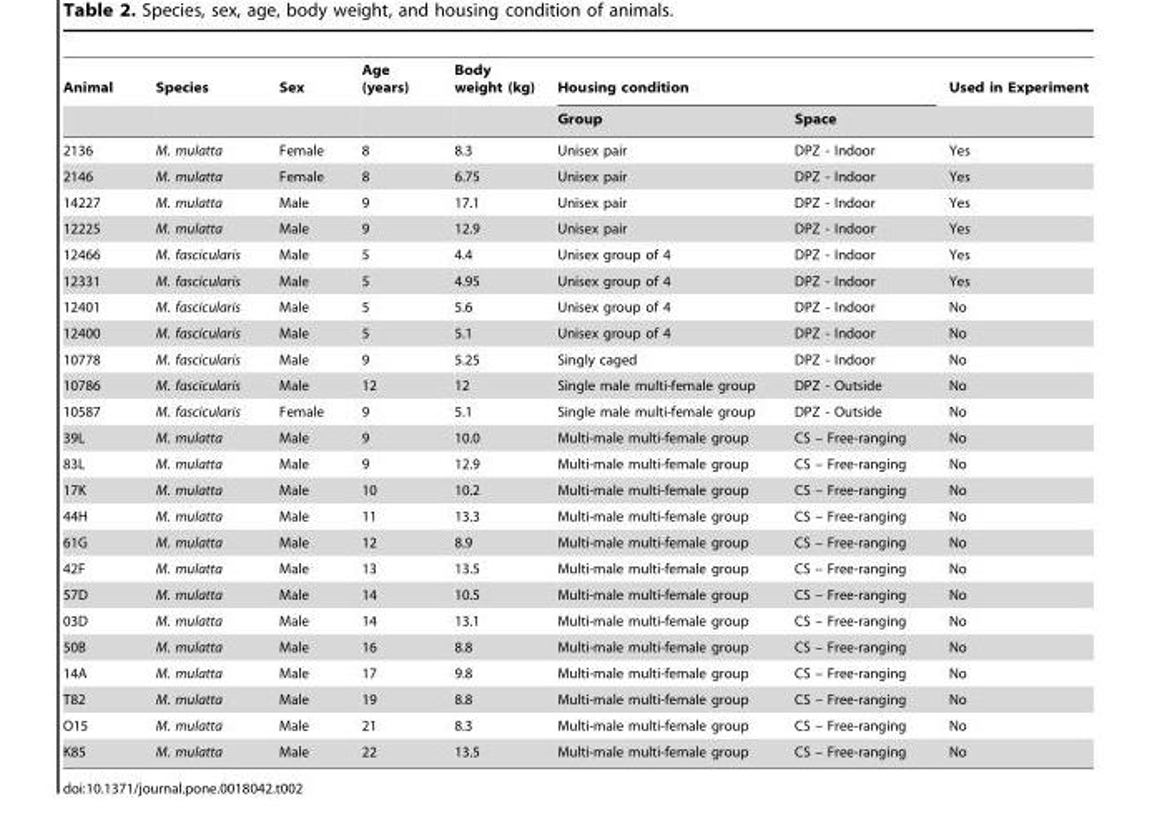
<table><thead><tr><td rowspan="2">Animal</td><td rowspan="2">Species</td><td rowspan="2">Sex</td><td rowspan="2">Age (years)</td><td rowspan="2">Body weight (kg)</td><td colspan="2">Housing condition</td><td rowspan="2">Used in Experiment</td></tr><tr><td>Group</td><td>Space</td></tr></thead><tbody><tr><td>2136</td><td>M. mulatta</td><td>Female</td><td>8</td><td>8.3</td><td>Unisex pair</td><td>DPZ - Indoor</td><td>Yes</td></tr><tr><td>2146</td><td>M. mulatta</td><td>Female</td><td>8</td><td>6.75</td><td>Unisex pair</td><td>DPZ - Indoor</td><td>Yes</td></tr><tr><td>14227</td><td>M. mulatta</td><td>Male</td><td>9</td><td>17.1</td><td>Unisex pair</td><td>DPZ - Indoor</td><td>Yes</td></tr><tr><td>12225</td><td>M. mulatta</td><td>Male</td><td>9</td><td>12.9</td><td>Unisex pair</td><td>DPZ - Indoor</td><td>Yes</td></tr><tr><td>12466</td><td>M. fascicularis</td><td>Male</td><td>5</td><td>4.4</td><td>Unisex group of 4</td><td>DPZ - Indoor</td><td>Yes</td></tr><tr><td>12331</td><td>M. fascicularis</td><td>Male</td><td>5</td><td>4.95</td><td>Unisex group of 4</td><td>DPZ - Indoor</td><td>Yes</td></tr><tr><td>12401</td><td>M. fascicularis</td><td>Male</td><td>5</td><td>5.6</td><td>Unisex group of 4</td><td>DPZ - Indoor</td><td>No</td></tr><tr><td>12400</td><td>M. fascicularis</td><td>Male</td><td>5</td><td>5.1</td><td>Unisex group of 4</td><td>DPZ - Indoor</td><td>No</td></tr><tr><td>10778</td><td>M. fascicularis</td><td>Male</td><td>9</td><td>5.25</td><td>Singly caged</td><td>DPZ - Indoor</td><td>No</td></tr><tr><td>10786</td><td>M. fascicularis</td><td>Male</td><td>12</td><td>12</td><td>Single male multi-female group</td><td>DPZ - Outside</td><td>No</td></tr><tr><td>10587</td><td>M. fascicularis</td><td>Female</td><td>9</td><td>5.1</td><td>Single male multi-female group</td><td>DPZ - Outside</td><td>No</td></tr><tr><td>39L</td><td>M. mulatta</td><td>Male</td><td>9</td><td>10.0</td><td>Multi-male multi-female group</td><td>CS – Free-ranging</td><td>No</td></tr><tr><td>83L</td><td>M. mulatta</td><td>Male</td><td>9</td><td>12.9</td><td>Multi-male multi-female group</td><td>CS – Free-ranging</td><td>No</td></tr><tr><td>17K</td><td>M. mulatta</td><td>Male</td><td>10</td><td>10.2</td><td>Multi-male multi-female group</td><td>CS – Free-ranging</td><td>No</td></tr><tr><td>44H</td><td>M. mulatta</td><td>Male</td><td>11</td><td>13.3</td><td>Multi-male multi-female group</td><td>CS – Free-ranging</td><td>No</td></tr><tr><td>61G</td><td>M. mulatta</td><td>Male</td><td>12</td><td>8.9</td><td>Multi-male multi-female group</td><td>CS – Free-ranging</td><td>No</td></tr><tr><td>42F</td><td>M. mulatta</td><td>Male</td><td>13</td><td>13.5</td><td>Multi-male multi-female group</td><td>CS – Free-ranging</td><td>No</td></tr><tr><td>57D</td><td>M. mulatta</td><td>Male</td><td>14</td><td>10.5</td><td>Multi-male multi-female group</td><td>CS – Free-ranging</td><td>No</td></tr><tr><td>03D</td><td>M. mulatta</td><td>Male</td><td>14</td><td>13.1</td><td>Multi-male multi-female group</td><td>CS – Free-ranging</td><td>No</td></tr><tr><td>50B</td><td>M. mulatta</td><td>Male</td><td>16</td><td>8.8</td><td>Multi-male multi-female group</td><td>CS – Free-ranging</td><td>No</td></tr><tr><td>14A</td><td>M. mulatta</td><td>Male</td><td>17</td><td>9.8</td><td>Multi-male multi-female group</td><td>CS – Free-ranging</td><td>No</td></tr><tr><td>T82</td><td>M. mulatta</td><td>Male</td><td>19</td><td>8.8</td><td>Multi-male multi-female group</td><td>CS – Free-ranging</td><td>No</td></tr><tr><td>O15</td><td>M. mulatta</td><td>Male</td><td>21</td><td>8.3</td><td>Multi-male multi-female group</td><td>CS – Free-ranging</td><td>No</td></tr><tr><td>K85</td><td>M. mulatta</td><td>Male</td><td>22</td><td>13.5</td><td>Multi-male multi-female group</td><td>CS – Free-ranging</td><td>No</td></tr></tbody></table>